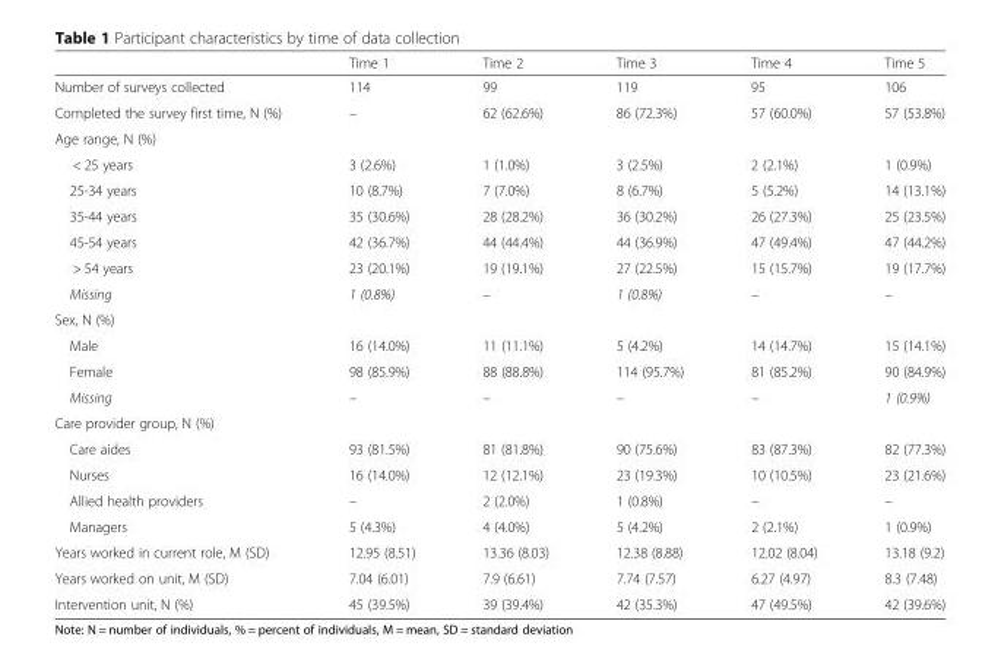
<table><thead><tr><td></td><td>Time 1</td><td>Time 2</td><td>Time 3</td><td>Time 4</td><td>Time 5</td></tr></thead><tbody><tr><td>Number of surveys collected</td><td>114</td><td>99</td><td>119</td><td>95</td><td>106</td></tr><tr><td>Completed the survey first time, N (%)</td><td>–</td><td>62 (62.6%)</td><td>86 (72.3%)</td><td>57 (60.0%)</td><td>57 (53.8%)</td></tr><tr><td colspan="6">Age range, N (%)</td></tr><tr><td>&lt; 25 years</td><td>3 (2.6%)</td><td>1 (1.0%)</td><td>3 (2.5%)</td><td>2 (2.1%)</td><td>1 (0.9%)</td></tr><tr><td>25-34 years</td><td>10 (8.7%)</td><td>7 (7.0%)</td><td>8 (6.7%)</td><td>5 (5.2%)</td><td>14 (13.1%)</td></tr><tr><td>35-44 years</td><td>35 (30.6%)</td><td>28 (28.2%)</td><td>36 (30.2%)</td><td>26 (27.3%)</td><td>25 (23.5%)</td></tr><tr><td>45-54 years</td><td>42 (36.7%)</td><td>44 (44.4%)</td><td>44 (36.9%)</td><td>47 (49.4%)</td><td>47 (44.2%)</td></tr><tr><td>&gt; 54 years</td><td>23 (20.1%)</td><td>19 (19.1%)</td><td>27 (22.5%)</td><td>15 (15.7%)</td><td>19 (17.7%)</td></tr><tr><td>Missing</td><td>1 (0.8%)</td><td>–</td><td>1 (0.8%)</td><td>–</td><td>–</td></tr><tr><td colspan="6">Sex, N (%)</td></tr><tr><td>Male</td><td>16 (14.0%)</td><td>11 (11.1%)</td><td>5 (4.2%)</td><td>14 (14.7%)</td><td>15 (14.1%)</td></tr><tr><td>Female</td><td>98 (85.9%)</td><td>88 (88.8%)</td><td>114 (95.7%)</td><td>81 (85.2%)</td><td>90 (84.9%)</td></tr><tr><td>Missing</td><td>–</td><td>–</td><td>–</td><td>–</td><td>1 (0.9%)</td></tr><tr><td colspan="6">Care provider group, N (%)</td></tr><tr><td>Care aides</td><td>93 (81.5%)</td><td>81 (81.8%)</td><td>90 (75.6%)</td><td>83 (87.3%)</td><td>82 (77.3%)</td></tr><tr><td>Nurses</td><td>16 (14.0%)</td><td>12 (12.1%)</td><td>23 (19.3%)</td><td>10 (10.5%)</td><td>23 (21.6%)</td></tr><tr><td>Allied health providers</td><td>–</td><td>2 (2.0%)</td><td>1 (0.8%)</td><td>–</td><td>–</td></tr><tr><td>Managers</td><td>5 (4.3%)</td><td>4 (4.0%)</td><td>5 (4.2%)</td><td>2 (2.1%)</td><td>1 (0.9%)</td></tr><tr><td>Years worked in current role, M (SD)</td><td>12.95 (8.51)</td><td>13.36 (8.03)</td><td>12.38 (8.88)</td><td>12.02 (8.04)</td><td>13.18 (9.2)</td></tr><tr><td>Years worked on unit, M (SD)</td><td>7.04 (6.01)</td><td>7.9 (6.61)</td><td>7.74 (7.57)</td><td>6.27 (4.97)</td><td>8.3 (7.48)</td></tr><tr><td>Intervention unit, N (%)</td><td>45 (39.5%)</td><td>39 (39.4%)</td><td>42 (35.3%)</td><td>47 (49.5%)</td><td>42 (39.6%)</td></tr></tbody></table>